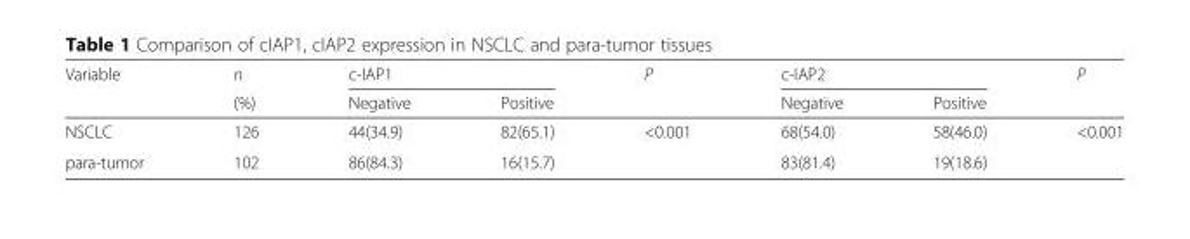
<table><thead><tr><td rowspan="2">Variable</td><td rowspan="2">n (%)</td><td colspan="2">c-IAP1</td><td rowspan="2">P</td><td colspan="2">c-IAP2</td><td rowspan="2">P</td></tr><tr><td>Negative</td><td>Positive</td><td>Negative</td><td>Positive</td></tr></thead><tbody><tr><td>NSCLC</td><td>126</td><td>44(34.9)</td><td>82(65.1)</td><td>&lt;0.001</td><td>68(54.0)</td><td>58(46.0)</td><td>&lt;0.001</td></tr><tr><td>para-tumor</td><td>102</td><td>86(84.3)</td><td>16(15.7)</td><td></td><td>83(81.4)</td><td>19(18.6)</td><td></td></tr></tbody></table>